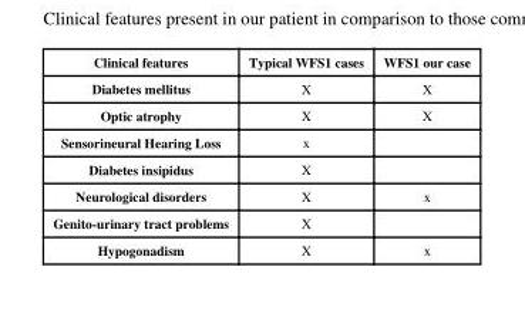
<table><thead><tr><td>Clinical features</td><td>Typical WFS1 cases</td><td>WFS1 our case</td></tr></thead><tbody><tr><td>Diabetes mellitus</td><td>X</td><td>X</td></tr><tr><td>Optic atrophy</td><td>X</td><td>X</td></tr><tr><td>Sensorineural Hearing Loss</td><td>x</td><td></td></tr><tr><td>Diabetes insipidus</td><td>X</td><td></td></tr><tr><td>Neurological disorders</td><td>X</td><td>x</td></tr><tr><td>Genito-urinary tract problems</td><td>X</td><td></td></tr><tr><td>Hypogonadism</td><td>X</td><td>x</td></tr></tbody></table>